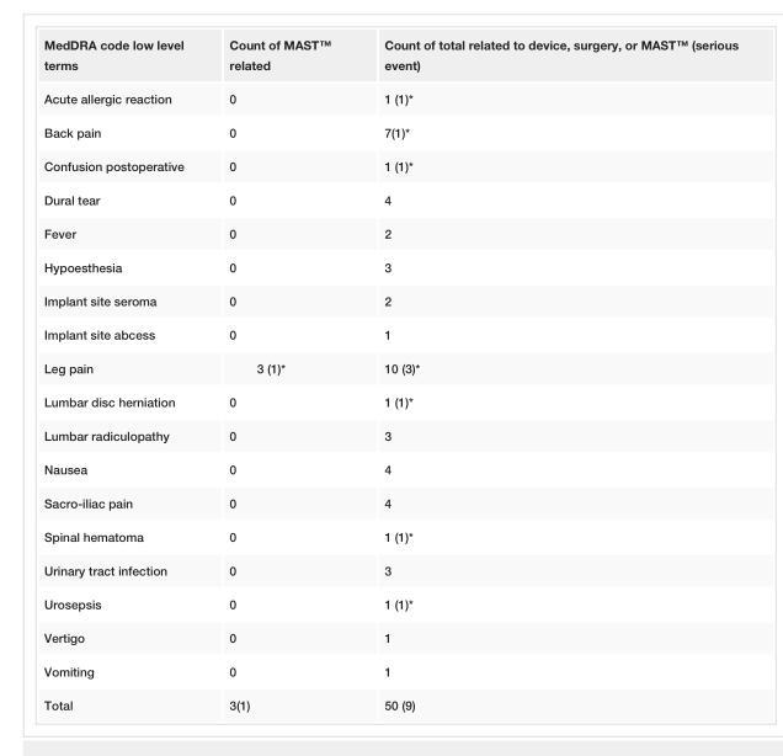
<table><tbody><tr><td>MedDRA code low level terms</td><td>Count of MAST™ related</td><td>Count of total related to device, surgery, or MAST™ (serious event)</td></tr><tr><td>Acute allergic reaction</td><td>0</td><td>1 (1)*</td></tr><tr><td>Back pain</td><td>0</td><td>7(1)*</td></tr><tr><td>Confusion postoperative</td><td>0</td><td>1 (1)*</td></tr><tr><td>Dural tear</td><td>0</td><td>4</td></tr><tr><td>Fever</td><td>0</td><td>2</td></tr><tr><td>Hypoesthesia</td><td>0</td><td>3</td></tr><tr><td>Implant site seroma</td><td>0</td><td>2</td></tr><tr><td>Implant site abcess</td><td>0</td><td>1</td></tr><tr><td>Leg pain</td><td>3 (1)*</td><td>10 (3)*</td></tr><tr><td>Lumbar disc herniation</td><td>0</td><td>1 (1)*</td></tr><tr><td>Lumbar radiculopathy</td><td>0</td><td>3</td></tr><tr><td>Nausea</td><td>0</td><td>4</td></tr><tr><td>Sacro-iliac pain</td><td>0</td><td>4</td></tr><tr><td>Spinal hematoma</td><td>0</td><td>1 (1)*</td></tr><tr><td>Urinary tract infection</td><td>0</td><td>3</td></tr><tr><td>Urosepsis</td><td>0</td><td>1 (1)*</td></tr><tr><td>Vertigo</td><td>0</td><td>1</td></tr><tr><td>Vomiting</td><td>0</td><td>1</td></tr><tr><td>Total</td><td>3(1)</td><td>50 (9)</td></tr></tbody></table>